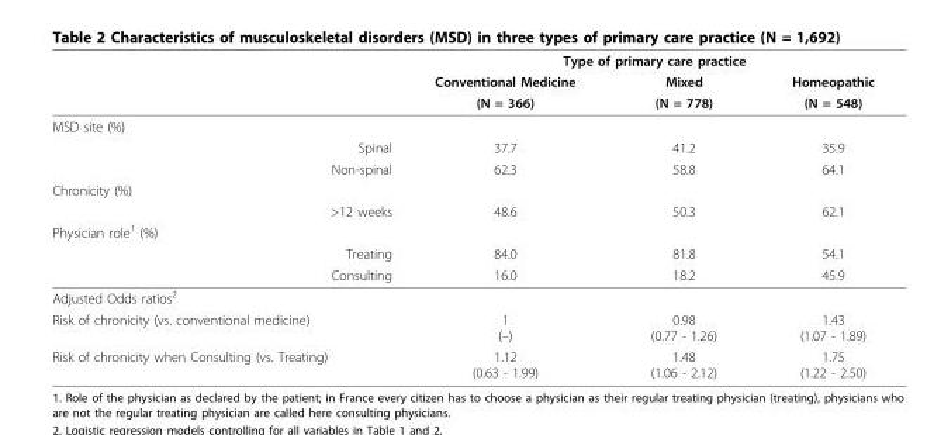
<table><thead><tr><td rowspan="3"></td><td colspan="3">Type of primary care practice</td></tr><tr><td rowspan="2">Conventional Medicine (N = 366)</td><td rowspan="2">Mixed (N = 778)</td><td rowspan="2">Homeopathic (N = 548)</td></tr><tr></tr></thead><tbody><tr><td colspan="4">MSD site (%)</td></tr><tr><td>Spinal</td><td>37.7</td><td>41.2</td><td>35.9</td></tr><tr><td>Non-spinal</td><td>62.3</td><td>58.8</td><td>64.1</td></tr><tr><td colspan="4">Chronicity (%)</td></tr><tr><td>&gt;12 weeks</td><td>48.6</td><td>50.3</td><td>62.1</td></tr><tr><td colspan="4">Physician role<sup>1</sup> (%)</td></tr><tr><td>Treating</td><td>84.0</td><td>81.8</td><td>54.1</td></tr><tr><td>Consulting</td><td>16.0</td><td>18.2</td><td>45.9</td></tr><tr><td colspan="4">Adjusted Odds ratios<sup>2</sup></td></tr><tr><td>Risk of chronicity (vs. conventional medicine)</td><td>1 (–)</td><td>0.98 (0.77 - 1.26)</td><td>1.43 (1.07 - 1.89)</td></tr><tr><td>Risk of chronicity when Consulting (vs. Treating)</td><td>1.12 (0.63 - 1.99)</td><td>1.48 (1.06 - 2.12)</td><td>1.75 (1.22 - 2.50)</td></tr></tbody></table>